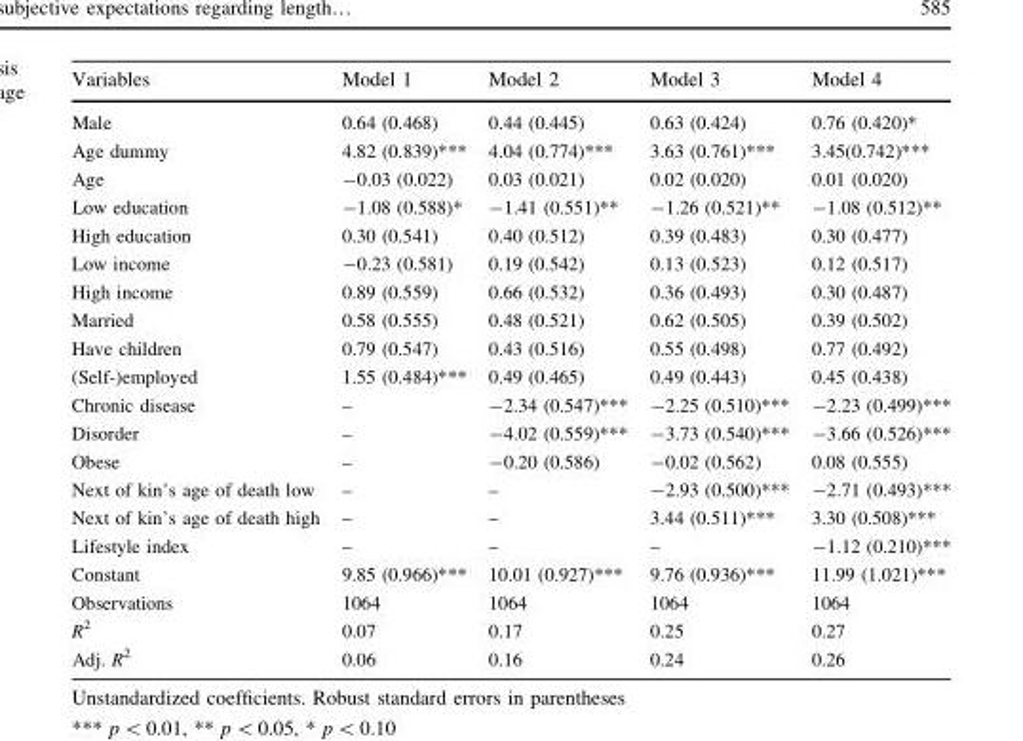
<table><thead><tr><td>Variables</td><td>Model 1</td><td>Model 2</td><td>Model 3</td><td>Model 4</td></tr></thead><tbody><tr><td>Male</td><td>0.64 (0.468)</td><td>0.44 (0.445)</td><td>0.63 (0.424)</td><td>0.76 (0.420)*</td></tr><tr><td>Age dummy</td><td>4.82 (0.839)***</td><td>4.04 (0.774)***</td><td>3.63 (0.761)***</td><td>3.45(0.742)***</td></tr><tr><td>Age</td><td>-0.03 (0.022)</td><td>0.03 (0.021)</td><td>0.02 (0.020)</td><td>0.01 (0.020)</td></tr><tr><td>Low education</td><td>-1.08 (0.588)*</td><td>-1.41 (0.551)**</td><td>-1.26 (0.521)**</td><td>-1.08 (0.512)**</td></tr><tr><td>High education</td><td>0.30 (0.541)</td><td>0.40 (0.512)</td><td>0.39 (0.483)</td><td>0.30 (0.477)</td></tr><tr><td>Low income</td><td>-0.23 (0.581)</td><td>0.19 (0.542)</td><td>0.13 (0.523)</td><td>0.12 (0.517)</td></tr><tr><td>High income</td><td>0.89 (0.559)</td><td>0.66 (0.532)</td><td>0.36 (0.493)</td><td>0.30 (0.487)</td></tr><tr><td>Married</td><td>0.58 (0.555)</td><td>0.48 (0.521)</td><td>0.62 (0.505)</td><td>0.39 (0.502)</td></tr><tr><td>Have children</td><td>0.79 (0.547)</td><td>0.43 (0.516)</td><td>0.55 (0.498)</td><td>0.77 (0.492)</td></tr><tr><td>(Self-)employed</td><td>1.55 (0.484)***</td><td>0.49 (0.465)</td><td>0.49 (0.443)</td><td>0.45 (0.438)</td></tr><tr><td>Chronic disease</td><td>–</td><td>-2.34 (0.547)***</td><td>-2.25 (0.510)***</td><td>-2.23 (0.499)***</td></tr><tr><td>Disorder</td><td>–</td><td>-4.02 (0.559)***</td><td>-3.73 (0.540)***</td><td>-3.66 (0.526)***</td></tr><tr><td>Obese</td><td>–</td><td>-0.20 (0.586)</td><td>-0.02 (0.562)</td><td>0.08 (0.555)</td></tr><tr><td>Next of kin’s age of death low</td><td>–</td><td>–</td><td>-2.93 (0.500)***</td><td>-2.71 (0.493)***</td></tr><tr><td>Next of kin’s age of death high</td><td>–</td><td>–</td><td>3.44 (0.511)***</td><td>3.30 (0.508)***</td></tr><tr><td>Lifestyle index</td><td>–</td><td>–</td><td>–</td><td>-1.12 (0.210)***</td></tr><tr><td>Constant</td><td>9.85 (0.966)***</td><td>10.01 (0.927)***</td><td>9.76 (0.936)***</td><td>11.99 (1.021)***</td></tr><tr><td>Observations</td><td>1064</td><td>1064</td><td>1064</td><td>1064</td></tr><tr><td>R<sup>2</sup></td><td>0.07</td><td>0.17</td><td>0.25</td><td>0.27</td></tr><tr><td>Adj. R<sup>2</sup></td><td>0.06</td><td>0.16</td><td>0.24</td><td>0.26</td></tr></tbody></table>